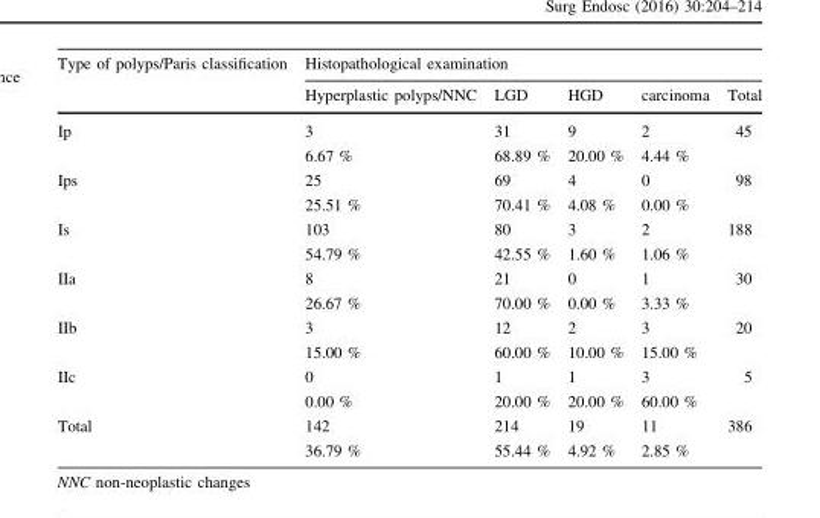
<table><thead><tr><td rowspan="2">Type of polyps/Paris classification</td><td colspan="5">Histopathological examination</td></tr><tr><td>Hyperplastic polyps/NNC</td><td>LGD</td><td>HGD</td><td>carcinoma</td><td>Total</td></tr></thead><tbody><tr><td rowspan="2">Ip</td><td>3</td><td>31</td><td>9</td><td>2</td><td rowspan="2">45</td></tr><tr><td>6.67 %</td><td>68.89 %</td><td>20.00 %</td><td>4.44 %</td></tr><tr><td rowspan="2">Ips</td><td>25</td><td>69</td><td>4</td><td>0</td><td rowspan="2">98</td></tr><tr><td>25.51 %</td><td>70.41 %</td><td>4.08 %</td><td>0.00 %</td></tr><tr><td rowspan="2">Is</td><td>103</td><td>80</td><td>3</td><td>2</td><td rowspan="2">188</td></tr><tr><td>54.79 %</td><td>42.55 %</td><td>1.60 %</td><td>1.06 %</td></tr><tr><td rowspan="2">IIa</td><td>8</td><td>21</td><td>0</td><td>1</td><td rowspan="2">30</td></tr><tr><td>26.67 %</td><td>70.00 %</td><td>0.00 %</td><td>3.33 %</td></tr><tr><td rowspan="2">IIb</td><td>3</td><td>12</td><td>2</td><td>3</td><td rowspan="2">20</td></tr><tr><td>15.00 %</td><td>60.00 %</td><td>10.00 %</td><td>15.00 %</td></tr><tr><td rowspan="2">IIc</td><td>0</td><td>1</td><td>1</td><td>3</td><td rowspan="2">5</td></tr><tr><td>0.00 %</td><td>20.00 %</td><td>20.00 %</td><td>60.00 %</td></tr><tr><td rowspan="2">Total</td><td>142</td><td>214</td><td>19</td><td>11</td><td rowspan="2">386</td></tr><tr><td>36.79 %</td><td>55.44 %</td><td>4.92 %</td><td>2.85 %</td></tr></tbody></table>